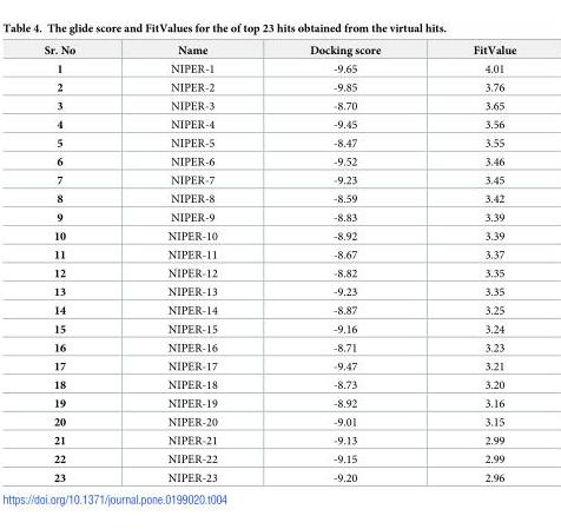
<table><thead><tr><td>Sr. No</td><td>Name</td><td>Docking score</td><td>FitValue</td></tr></thead><tbody><tr><td>1</td><td>NIPER-1</td><td>-9.65</td><td>4.01</td></tr><tr><td>2</td><td>NIPER-2</td><td>-9.85</td><td>3.76</td></tr><tr><td>3</td><td>NIPER-3</td><td>-8.70</td><td>3.65</td></tr><tr><td>4</td><td>NIPER-4</td><td>-9.45</td><td>3.56</td></tr><tr><td>5</td><td>NIPER-5</td><td>-8.47</td><td>3.55</td></tr><tr><td>6</td><td>NIPER-6</td><td>-9.52</td><td>3.46</td></tr><tr><td>7</td><td>NIPER-7</td><td>-9.23</td><td>3.45</td></tr><tr><td>8</td><td>NIPER-8</td><td>-8.59</td><td>3.42</td></tr><tr><td>9</td><td>NIPER-9</td><td>-8.83</td><td>3.39</td></tr><tr><td>10</td><td>NIPER-10</td><td>-8.92</td><td>3.39</td></tr><tr><td>11</td><td>NIPER-11</td><td>-8.67</td><td>3.37</td></tr><tr><td>12</td><td>NIPER-12</td><td>-8.82</td><td>3.35</td></tr><tr><td>13</td><td>NIPER-13</td><td>-9.23</td><td>3.35</td></tr><tr><td>14</td><td>NIPER-14</td><td>-8.87</td><td>3.25</td></tr><tr><td>15</td><td>NIPER-15</td><td>-9.16</td><td>3.24</td></tr><tr><td>16</td><td>NIPER-16</td><td>-8.71</td><td>3.23</td></tr><tr><td>17</td><td>NIPER-17</td><td>-9.47</td><td>3.21</td></tr><tr><td>18</td><td>NIPER-18</td><td>-8.73</td><td>3.20</td></tr><tr><td>19</td><td>NIPER-19</td><td>-8.92</td><td>3.16</td></tr><tr><td>20</td><td>NIPER-20</td><td>-9.01</td><td>3.15</td></tr><tr><td>21</td><td>NIPER-21</td><td>-9.13</td><td>2.99</td></tr><tr><td>22</td><td>NIPER-22</td><td>-9.15</td><td>2.99</td></tr><tr><td>23</td><td>NIPER-23</td><td>-9.20</td><td>2.96</td></tr></tbody></table>